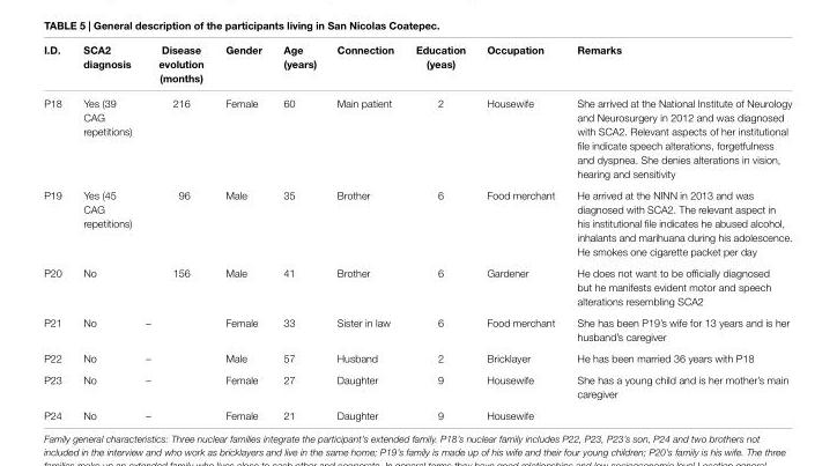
<table><thead><tr><td>i.D.</td><td>sca2 diagnosis</td><td>Disease evolution (months)</td><td>gender</td><td>age (years)</td><td>connection</td><td>education (yeas)</td><td>Occupation</td><td>remarks</td></tr></thead><tbody><tr><td>P18</td><td>Yes (39 CAG repetitions)</td><td>216</td><td>Female</td><td>60</td><td>Main patient</td><td>2</td><td>Housewife</td><td>She arrived at the National Institute of Neurology and Neurosurgery in 2012 and was diagnosed with SCA2. Relevant aspects of her institutional file indicate speech alterations, forgetfulness and dyspnea. She denies alterations in vision, hearing and sensitivity</td></tr><tr><td>P19</td><td>Yes (45 CAG repetitions)</td><td>96</td><td>Male</td><td>35</td><td>Brother</td><td>6</td><td>Food merchant</td><td>He arrived at the NINN in 2013 and was diagnosed with SCA2. The relevant aspect in his institutional file indicates he abused alcohol, inhalants and marihuana during his adolescence. He smokes one cigarette packet per day</td></tr><tr><td>P20</td><td>No</td><td>156</td><td>Male</td><td>41</td><td>Brother</td><td>6</td><td>Gardener</td><td>He does not want to be officially diagnosed but he manifests evident motor and speech alterations resembling SCA2</td></tr><tr><td>P21</td><td>No</td><td>–</td><td>Female</td><td>33</td><td>Sister in law</td><td>6</td><td>Food merchant</td><td>She has been P19’s wife for 13 years and is her husband’s caregiver</td></tr><tr><td>P22</td><td>No</td><td>–</td><td>Male</td><td>57</td><td>Husband</td><td>2</td><td>Bricklayer</td><td>He has been married 36 years with P18</td></tr><tr><td>P23</td><td>No</td><td>–</td><td>Female</td><td>27</td><td>Daughter</td><td>9</td><td>Housewife</td><td>She has a young child and is her mother’s main caregiver</td></tr><tr><td>P24</td><td>No</td><td>–</td><td>Female</td><td>21</td><td>Daughter</td><td>9</td><td>Housewife</td><td></td></tr></tbody></table>